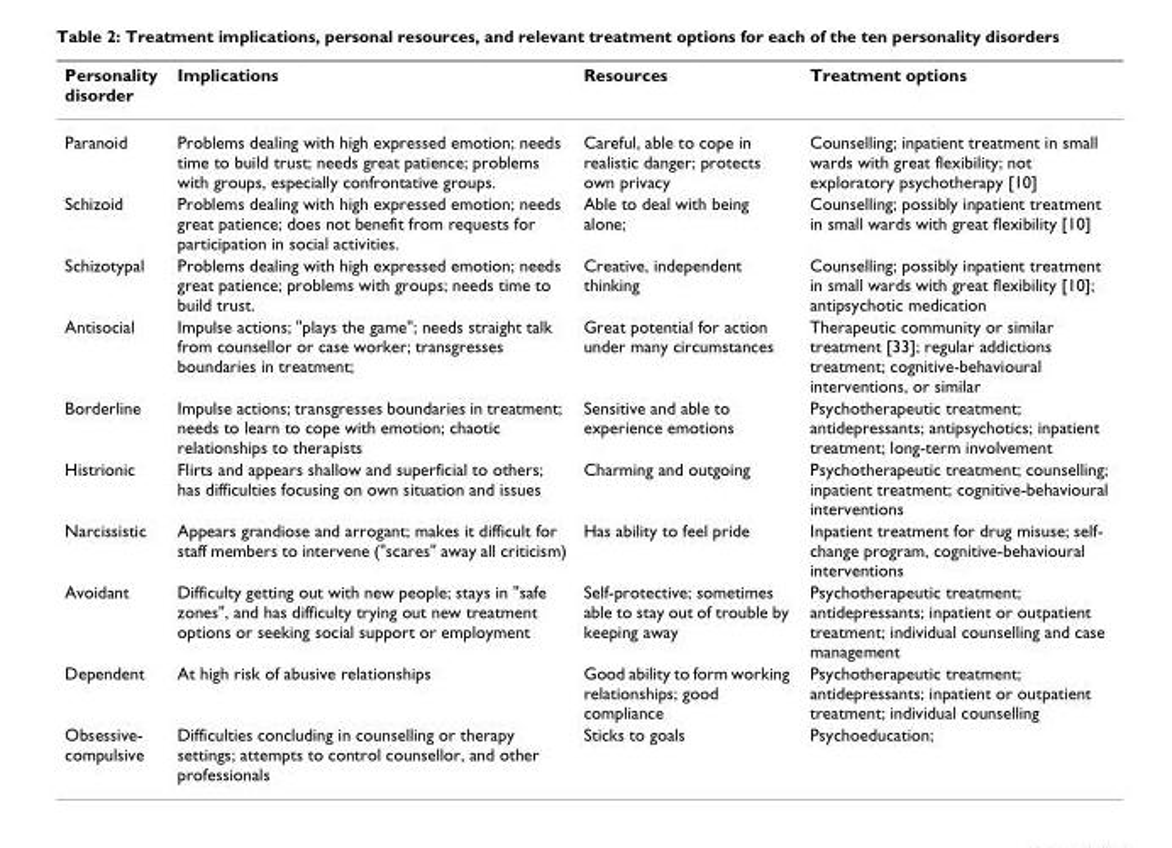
<table><thead><tr><td>Personality disorder</td><td>Implications</td><td>Resources</td><td>Treatment options</td></tr></thead><tbody><tr><td>Paranoid</td><td>Problems dealing with high expressed emotion; needs time to build trust; needs great patience; problems with groups, especially confrontative groups.</td><td>Careful, able to cope in realistic danger; protects own privacy</td><td>Counselling; inpatient treatment in small wards with great flexibility; not exploratory psychotherapy [10]</td></tr><tr><td>Schizoid</td><td>Problems dealing with high expressed emotion; needs great patience; does not benefit from requests for participation in social activities.</td><td>Able to deal with being alone;</td><td>Counselling; possibly inpatient treatment in small wards with great flexibility [10]</td></tr><tr><td>Schizotypal</td><td>Problems dealing with high expressed emotion; needs great patience; problems with groups; needs time to build trust.</td><td>Creative, independent thinking</td><td>Counselling; possibly inpatient treatment in small wards with great flexibility [10]; antipsychotic medication</td></tr><tr><td>Antisocial</td><td>Impulse actions; &quot;plays the game&quot;; needs straight talk from counsellor or case worker; transgresses boundaries in treatment;</td><td>Great potential for action under many circumstances</td><td>Therapeutic community or similar treatment [33]; regular addictions treatment; cognitive-behavioural interventions, or similar</td></tr><tr><td>Borderline</td><td>Impulse actions; transgresses boundaries in treatment; needs to learn to cope with emotion; chaotic relationships to therapists</td><td>Sensitive and able to experience emotions</td><td>Psychotherapeutic treatment; antidepressants; antipsychotics; inpatient treatment; long-term involvement</td></tr><tr><td>Histrionic</td><td>Flirts and appears shallow and superficial to others; has difficulties focusing on own situation and issues</td><td>Charming and outgoing</td><td>Psychotherapeutic treatment; counselling; inpatient treatment; cognitive-behavioural interventions</td></tr><tr><td>Narcissistic</td><td>Appears grandiose and arrogant; makes it difficult for staff members to intervene (&quot;scares&quot; away all criticism)</td><td>Has ability to feel pride</td><td>Inpatient treatment for drug misuse; self- change program, cognitive-behavioural interventions</td></tr><tr><td>Avoidant</td><td>Difficulty getting out with new people; stays in &quot;safe zones&quot;, and has difficulty trying out new treatment options or seeking social support or employment</td><td>Self-protective; sometimes able to stay out of trouble by keeping away</td><td>Psychotherapeutic treatment; antidepressants; inpatient or outpatient treatment; individual counselling and case management</td></tr><tr><td>Dependent</td><td>At high risk of abusive relationships</td><td>Good ability to form working relationships; good compliance</td><td>Psychotherapeutic treatment; antidepressants; inpatient or outpatient treatment; individual counselling</td></tr><tr><td>Obsessive- compulsive</td><td>Difficulties concluding in counselling or therapy settings; attempts to control counsellor, and other professionals</td><td>Sticks to goals</td><td>Psychoeducation;</td></tr></tbody></table>